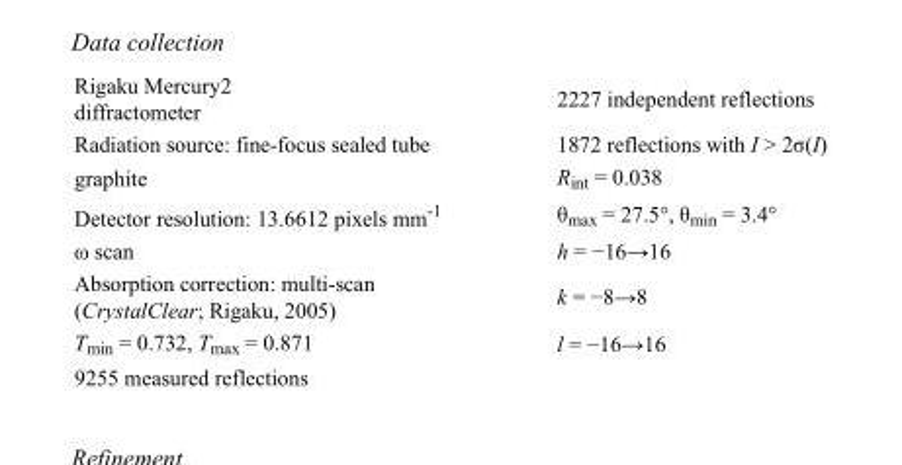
<table><tbody><tr><td>Rigaku Mercury2 diffractometer</td><td>2227 independent reflections</td></tr><tr><td>Radiation source: fine-focus sealed tube</td><td>1872 reflections with I &gt; 2σ(I)</td></tr><tr><td>graphite</td><td>R<sub>int</sub> = 0.038</td></tr><tr><td>Detector resolution: 13.6612 pixels mm<sup>-1</sup></td><td>θ<sub>max</sub> = 27.5°, θ<sub>min</sub> = 3.4°</td></tr><tr><td>ω scan</td><td>h = −16→16</td></tr><tr><td>Absorption correction: multi-scan (CrystalClear; Rigaku, 2005)</td><td>k = −8→8</td></tr><tr><td>T<sub>min</sub> = 0.732, T<sub>max</sub> = 0.871</td><td>l = −16→16</td></tr><tr><td>9255 measured reflections</td><td></td></tr></tbody></table>